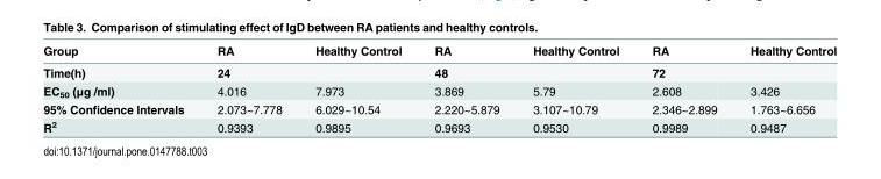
<table><thead><tr><td>Group</td><td>RA</td><td>Healthy Control</td><td>RA</td><td>Healthy Control</td><td>RA</td><td>Healthy Control</td></tr></thead><tbody><tr><td>Time(h)</td><td colspan="2">24</td><td colspan="2">48</td><td colspan="2">72</td></tr><tr><td>EC<sub>50</sub> (μg /ml)</td><td>4.016</td><td>7.973</td><td>3.869</td><td>5.79</td><td>2.608</td><td>3.426</td></tr><tr><td>95% Confidence Intervals</td><td>2.073~7.778</td><td>6.029~10.54</td><td>2.220~5.879</td><td>3.107~10.79</td><td>2.346~2.899</td><td>1.763~6.656</td></tr><tr><td>R<sup>2</sup></td><td>0.9393</td><td>0.9895</td><td>0.9693</td><td>0.9530</td><td>0.9989</td><td>0.9487</td></tr></tbody></table>